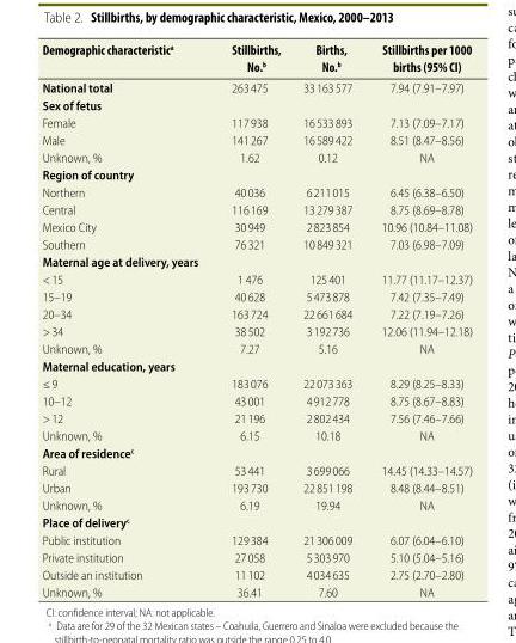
<table><thead><tr><td>Demographic characteristic<sup>a</sup></td><td>Stillbirths, No.<sup>b</sup></td><td>Births, No.<sup>b</sup></td><td>Stillbirths per 1000 births (95% CI)</td></tr></thead><tbody><tr><td>National total</td><td>263 475</td><td>33 163 577</td><td>7.94 (7.91–7.97)</td></tr><tr><td colspan="4">Sex of fetus</td></tr><tr><td>Female</td><td>117 938</td><td>16 533 893</td><td>7.13 (7.09–7.17)</td></tr><tr><td>Male</td><td>141 267</td><td>16 589 422</td><td>8.51 (8.47–8.56)</td></tr><tr><td>Unknown, %</td><td>1.62</td><td>0.12</td><td>NA</td></tr><tr><td colspan="4">Region of country</td></tr><tr><td>Northern</td><td>40 036</td><td>6 211 015</td><td>6.45 (6.38–6.50)</td></tr><tr><td>Central</td><td>116 169</td><td>13 279 387</td><td>8.75 (8.69–8.78)</td></tr><tr><td>Mexico City</td><td>30 949</td><td>2 823 854</td><td>10.96 (10.84–11.08)</td></tr><tr><td>Southern</td><td>76 321</td><td>10 849 321</td><td>7.03 (6.98–7.09)</td></tr><tr><td colspan="4">Maternal age at delivery, years</td></tr><tr><td>&lt; 15</td><td>1 476</td><td>125 401</td><td>11.77 (11.17–12.37)</td></tr><tr><td>15–19</td><td>40 628</td><td>5 473 878</td><td>7.42 (7.35–7.49)</td></tr><tr><td>20–34</td><td>163 724</td><td>22 661 684</td><td>7.22 (7.19–7.26)</td></tr><tr><td>&gt; 34</td><td>38 502</td><td>3 192 736</td><td>12.06 (11.94–12.18)</td></tr><tr><td>Unknown, %</td><td>7.27</td><td>5.16</td><td>NA</td></tr><tr><td colspan="4">Maternal education, years</td></tr><tr><td>≤ 9</td><td>183 076</td><td>22 073 363</td><td>8.29 (8.25–8.33)</td></tr><tr><td>10–12</td><td>43 001</td><td>4 912 778</td><td>8.75 (8.67–8.83)</td></tr><tr><td>&gt; 12</td><td>21 196</td><td>2 802 434</td><td>7.56 (7.46–7.66)</td></tr><tr><td>Unknown, %</td><td>6.15</td><td>10.18</td><td>NA</td></tr><tr><td colspan="4">Area of residence<sup>c</sup></td></tr><tr><td>Rural</td><td>53 441</td><td>3 699 066</td><td>14.45 (14.33–14.57)</td></tr><tr><td>Urban</td><td>193 730</td><td>22 851 198</td><td>8.48 (8.44–8.51)</td></tr><tr><td>Unknown, %</td><td>6.19</td><td>19.94</td><td>NA</td></tr><tr><td colspan="4">Place of delivery<sup>c</sup></td></tr><tr><td>Public institution</td><td>129 384</td><td>21 306 009</td><td>6.07 (6.04–6.10)</td></tr><tr><td>Private institution</td><td>27 058</td><td>5 303 970</td><td>5.10 (5.04–5.16)</td></tr><tr><td>Outside an institution</td><td>11 102</td><td>4 034 635</td><td>2.75 (2.70–2.80)</td></tr><tr><td>Unknown, %</td><td>36.41</td><td>7.60</td><td>NA</td></tr></tbody></table>